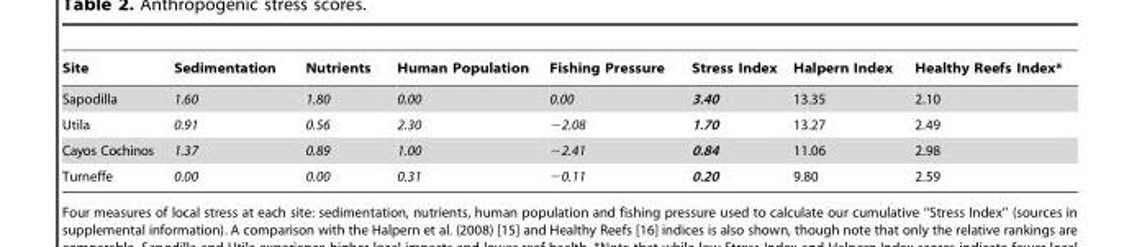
<table><thead><tr><td>Site</td><td>Sedimentation</td><td>Nutrients</td><td>Human Population</td><td>Fishing Pressure</td><td>Stress Index</td><td>Halpern Index</td><td>Healthy Reefs Index*</td></tr></thead><tbody><tr><td>Sapodilla</td><td>1.60</td><td>1.80</td><td>0.00</td><td>0.00</td><td>3.40</td><td>13.35</td><td>2.10</td></tr><tr><td>Utila</td><td>0.91</td><td>0.56</td><td>2.30</td><td>−2.08</td><td>1.70</td><td>13.27</td><td>2.49</td></tr><tr><td>Cayos Cochinos</td><td>1.37</td><td>0.89</td><td>1.00</td><td>−2.41</td><td>0.84</td><td>11.06</td><td>2.98</td></tr><tr><td>Turneffe</td><td>0.00</td><td>0.00</td><td>0.31</td><td>−0.11</td><td>0.20</td><td>9.80</td><td>2.59</td></tr></tbody></table>